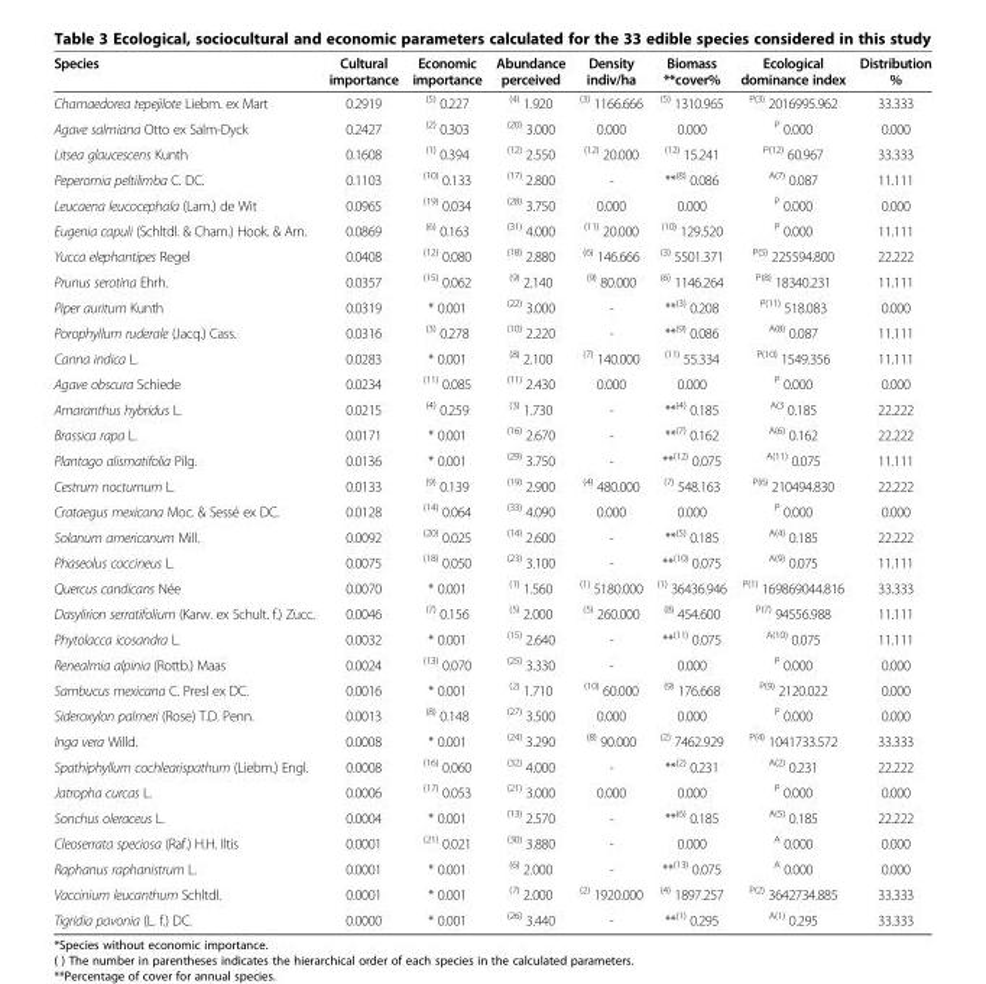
<table><thead><tr><td>Species</td><td>Cultural importance</td><td>Economic importance</td><td>Abundance perceived</td><td>Density indiv/ha</td><td>Biomass **cover%</td><td>Ecological dominance index</td><td>Distribution %</td></tr></thead><tbody><tr><td>Chamaedorea tepejilote Liebm. ex Mart</td><td>0.2919</td><td><sup>(5)</sup> 0.227</td><td><sup>(4)</sup> 1.920</td><td><sup>(3)</sup> 1166.666</td><td><sup>(5)</sup> 1310.965</td><td><sup>P(3)</sup> 2016995.962</td><td>33.333</td></tr><tr><td>Agave salmiana Otto ex Salm-Dyck</td><td>0.2427</td><td><sup>(2)</sup> 0.303</td><td><sup>(20)</sup> 3.000</td><td>0.000</td><td>0.000</td><td><sup>P</sup> 0.000</td><td>0.000</td></tr><tr><td>Litsea glaucescens Kunth</td><td>0.1608</td><td><sup>(1)</sup> 0.394</td><td><sup>(12)</sup> 2.550</td><td><sup>(12)</sup> 20.000</td><td><sup>(12)</sup> 15.241</td><td><sup>P(12)</sup> 60.967</td><td>33.333</td></tr><tr><td>Peperomia peltilimba C. DC.</td><td>0.1103</td><td><sup>(10)</sup> 0.133</td><td><sup>(17)</sup> 2.800</td><td>-</td><td>**<sup>(8)</sup> 0.086</td><td><sup>A(7)</sup> 0.087</td><td>11.111</td></tr><tr><td>Leucaena leucocephala (Lam.) de Wit</td><td>0.0965</td><td><sup>(19)</sup> 0.034</td><td><sup>(28)</sup> 3.750</td><td>0.000</td><td>0.000</td><td><sup>P</sup> 0.000</td><td>0.000</td></tr><tr><td>Eugenia capuli (Schltdl. &amp; Cham.) Hook. &amp; Arn.</td><td>0.0869</td><td><sup>(6)</sup> 0.163</td><td><sup>(31)</sup> 4.000</td><td><sup>(11)</sup> 20.000</td><td><sup>(10)</sup> 129.520</td><td><sup>P</sup> 0.000</td><td>11.111</td></tr><tr><td>Yucca elephantipes Regel</td><td>0.0408</td><td><sup>(12)</sup> 0.080</td><td><sup>(18)</sup> 2.880</td><td><sup>(6)</sup> 146.666</td><td><sup>(3)</sup> 5501.371</td><td><sup>P(5)</sup> 225594.800</td><td>22.222</td></tr><tr><td>Prunus serotina Ehrh.</td><td>0.0357</td><td><sup>(15)</sup> 0.062</td><td><sup>(9)</sup> 2.140</td><td><sup>(9)</sup> 80.000</td><td><sup>(6)</sup> 1146.264</td><td><sup>P(8)</sup> 18340.231</td><td>11.111</td></tr><tr><td>Piper auritum Kunth</td><td>0.0319</td><td>* 0.001</td><td><sup>(22)</sup> 3.000</td><td>-</td><td>**<sup>(3)</sup> 0.208</td><td><sup>P(11)</sup> 518.083</td><td>0.000</td></tr><tr><td>Porophyllum ruderale (Jacq.) Cass.</td><td>0.0316</td><td><sup>(3)</sup> 0.278</td><td><sup>(10)</sup> 2.220</td><td>-</td><td>**<sup>(9)</sup> 0.086</td><td><sup>A(8)</sup> 0.087</td><td>11.111</td></tr><tr><td>Canna indica L.</td><td>0.0283</td><td>* 0.001</td><td><sup>(8)</sup> 2.100</td><td><sup>(7)</sup> 140.000</td><td><sup>(11)</sup> 55.334</td><td><sup>P(10)</sup> 1549.356</td><td>11.111</td></tr><tr><td>Agave obscura Schiede</td><td>0.0234</td><td><sup>(11)</sup> 0.085</td><td><sup>(11)</sup> 2.430</td><td>0.000</td><td>0.000</td><td><sup>P</sup> 0.000</td><td>0.000</td></tr><tr><td>Amaranthus hybridus L.</td><td>0.0215</td><td><sup>(4)</sup> 0.259</td><td><sup>(3)</sup> 1.730</td><td>-</td><td>**<sup>(4)</sup> 0.185</td><td><sup>A(3</sup> 0.185</td><td>22.222</td></tr><tr><td>Brassica rapa L.</td><td>0.0171</td><td>* 0.001</td><td><sup>(16)</sup> 2.670</td><td>-</td><td>**<sup>(7)</sup> 0.162</td><td><sup>A(6)</sup> 0.162</td><td>22.222</td></tr><tr><td>Plantago alismatifolia Pilg.</td><td>0.0136</td><td>* 0.001</td><td><sup>(29)</sup> 3.750</td><td>-</td><td>**<sup>(12)</sup> 0.075</td><td><sup>A(11)</sup> 0.075</td><td>11.111</td></tr><tr><td>Cestrum nocturnum L.</td><td>0.0133</td><td><sup>(9)</sup> 0.139</td><td><sup>(19)</sup> 2.900</td><td><sup>(4)</sup> 480.000</td><td><sup>(7)</sup> 548.163</td><td><sup>P(6)</sup> 210494.830</td><td>22.222</td></tr><tr><td>Crataegus mexicana Moc. &amp; Sessé ex DC.</td><td>0.0128</td><td><sup>(14)</sup> 0.064</td><td><sup>(33)</sup> 4.090</td><td>0.000</td><td>0.000</td><td><sup>P</sup> 0.000</td><td>0.000</td></tr><tr><td>Solanum americanum Mill.</td><td>0.0092</td><td><sup>(20)</sup> 0.025</td><td><sup>(14)</sup> 2.600</td><td>-</td><td>**<sup>(5)</sup> 0.185</td><td><sup>A(4)</sup> 0.185</td><td>22.222</td></tr><tr><td>Phaseolus coccineus L.</td><td>0.0075</td><td><sup>(18)</sup> 0.050</td><td><sup>(23)</sup> 3.100</td><td>-</td><td>**<sup>(10)</sup> 0.075</td><td><sup>A(9)</sup> 0.075</td><td>11.111</td></tr><tr><td>Quercus candicans Née</td><td>0.0070</td><td>* 0.001</td><td><sup>(1)</sup> 1.560</td><td><sup>(1)</sup> 5180.000</td><td><sup>(1)</sup> 36436.946</td><td><sup>P(1)</sup> 169869044.816</td><td>33.333</td></tr><tr><td>Dasylirion serratifolium (Karw. ex Schult. f.) Zucc.</td><td>0.0046</td><td><sup>(7)</sup> 0.156</td><td><sup>(5)</sup> 2.000</td><td><sup>(5)</sup> 260.000</td><td><sup>(8)</sup> 454.600</td><td><sup>P(7)</sup> 94556.988</td><td>11.111</td></tr><tr><td>Phytolacca icosandra L.</td><td>0.0032</td><td>* 0.001</td><td><sup>(15)</sup> 2.640</td><td>-</td><td>**<sup>(11)</sup> 0.075</td><td><sup>A(10)</sup> 0.075</td><td>11.111</td></tr><tr><td>Renealmia alpinia (Rottb.) Maas</td><td>0.0024</td><td><sup>(13)</sup> 0.070</td><td><sup>(25)</sup> 3.330</td><td>-</td><td>0.000</td><td><sup>P</sup> 0.000</td><td>0.000</td></tr><tr><td>Sambucus mexicana C. Presl ex DC.</td><td>0.0016</td><td>* 0.001</td><td><sup>(2)</sup> 1.710</td><td><sup>(10)</sup> 60.000</td><td><sup>(9)</sup> 176.668</td><td><sup>P(9)</sup> 2120.022</td><td>0.000</td></tr><tr><td>Sideroxylon palmeri (Rose) T.D. Penn.</td><td>0.0013</td><td><sup>(8)</sup> 0.148</td><td><sup>(27)</sup> 3.500</td><td>0.000</td><td>0.000</td><td><sup>P</sup> 0.000</td><td>0.000</td></tr><tr><td>Inga vera Willd.</td><td>0.0008</td><td>* 0.001</td><td><sup>(24)</sup> 3.290</td><td><sup>(8)</sup> 90.000</td><td><sup>(2)</sup> 7462.929</td><td><sup>P(4)</sup> 1041733.572</td><td>33.333</td></tr><tr><td>Spathiphyllum cochlearispathum (Liebm.) Engl.</td><td>0.0008</td><td><sup>(16)</sup> 0.060</td><td><sup>(32)</sup> 4.000</td><td>-</td><td>**<sup>(2)</sup> 0.231</td><td><sup>A(2)</sup> 0.231</td><td>22.222</td></tr><tr><td>Jatropha curcas L.</td><td>0.0006</td><td><sup>(17)</sup> 0.053</td><td><sup>(21)</sup> 3.000</td><td>0.000</td><td>0.000</td><td><sup>P</sup> 0.000</td><td>0.000</td></tr><tr><td>Sonchus oleraceus L.</td><td>0.0004</td><td>* 0.001</td><td><sup>(13)</sup> 2.570</td><td>-</td><td>**<sup>(6)</sup> 0.185</td><td><sup>A(5)</sup> 0.185</td><td>22.222</td></tr><tr><td>Cleoserrata speciosa (Raf.) H.H. Iltis</td><td>0.0001</td><td><sup>(21)</sup> 0.021</td><td><sup>(30)</sup> 3.880</td><td>-</td><td>0.000</td><td><sup>A</sup> 0.000</td><td>0.000</td></tr><tr><td>Raphanus raphanistrum L.</td><td>0.0001</td><td>* 0.001</td><td><sup>(6)</sup> 2.000</td><td>-</td><td>**<sup>(13)</sup> 0.075</td><td><sup>A</sup> 0.000</td><td>0.000</td></tr><tr><td>Vaccinium leucanthum Schltdl.</td><td>0.0001</td><td>* 0.001</td><td><sup>(7)</sup> 2.000</td><td><sup>(2)</sup> 1920.000</td><td><sup>(4)</sup> 1897.257</td><td><sup>P(2)</sup> 3642734.885</td><td>33.333</td></tr><tr><td>Tigridia pavonia (L. f.) DC.</td><td>0.0000</td><td>* 0.001</td><td><sup>(26)</sup> 3.440</td><td>-</td><td>**<sup>(1)</sup> 0.295</td><td><sup>A(1)</sup> 0.295</td><td>33.333</td></tr></tbody></table>